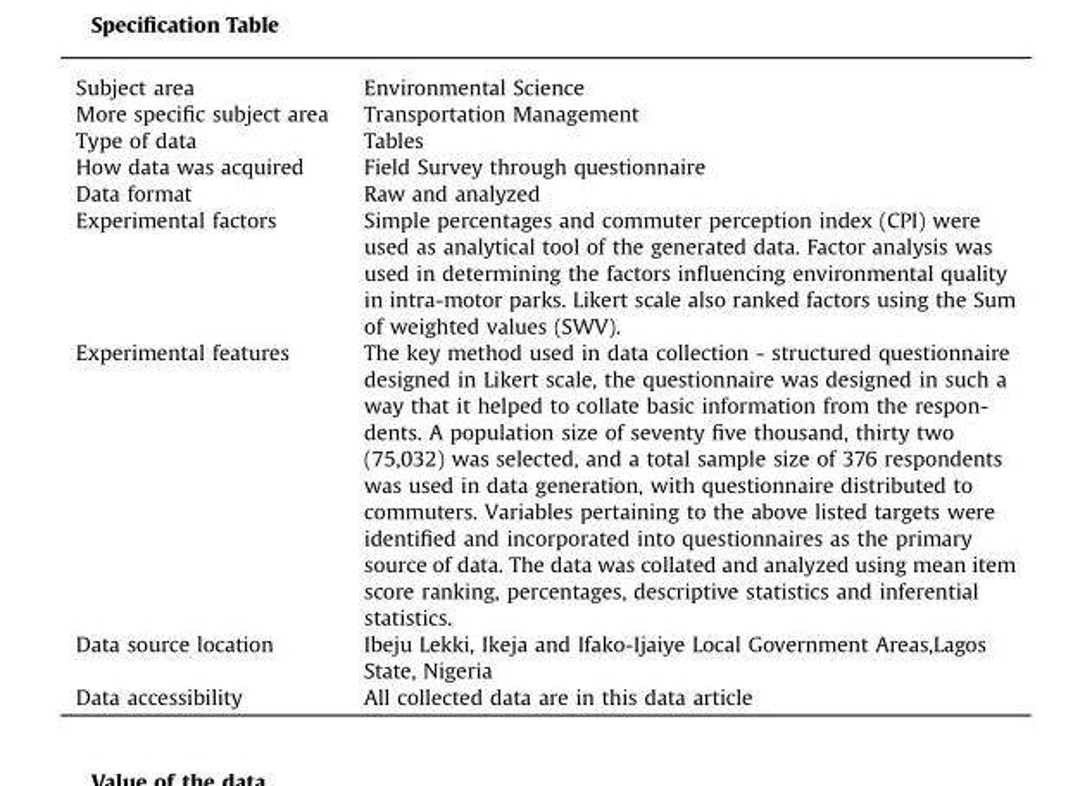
<table><tbody><tr><td>Subject area</td><td>Environmental Science</td></tr><tr><td>More specific subject area</td><td>Transportation Management</td></tr><tr><td>Type of data</td><td>Tables</td></tr><tr><td>How data was acquired</td><td>Field Survey through questionnaire</td></tr><tr><td>Data format</td><td>Raw and analyzed</td></tr><tr><td>Experimental factors</td><td>Simple percentages and commuter perception index (CPI) were used as analytical tool of the generated data. Factor analysis was used in determining the factors influencing environmental quality in intra-motor parks. Likert scale also ranked factors using the Sum of weighted values (SWV).</td></tr><tr><td>Experimental features</td><td>The key method used in data collection - structured questionnaire designed in Likert scale, the questionnaire was designed in such a way that it helped to collate basic information from the respon- dents. A population size of seventy five thousand, thirty two (75,032) was selected, and a total sample size of 376 respondents was used in data generation, with questionnaire distributed to commuters. Variables pertaining to the above listed targets were identified and incorporated into questionnaires as the primary source of data. The data was collated and analyzed using mean item score ranking, percentages, descriptive statistics and inferential statistics.</td></tr><tr><td>Data source location</td><td>Ibeju Lekki, Ikeja and Ifako-Ijaiye Local Government Areas,Lagos State, Nigeria</td></tr><tr><td>Data accessibility</td><td>All collected data are in this data article</td></tr></tbody></table>